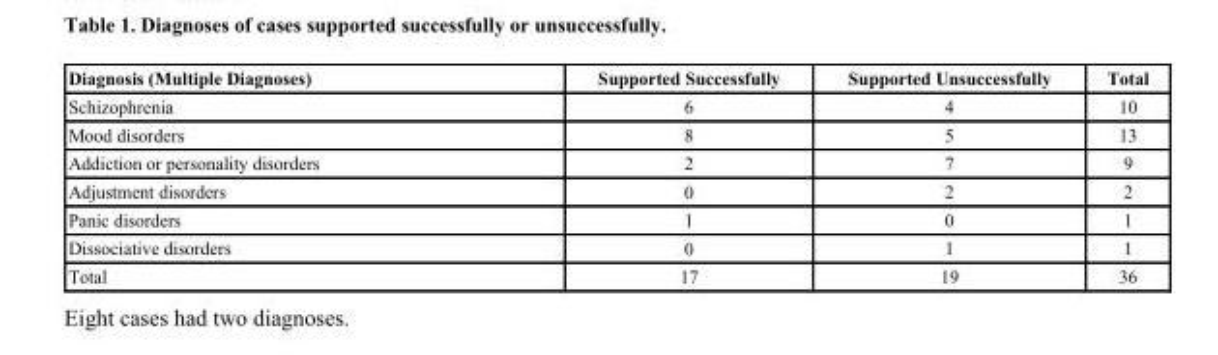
<table><thead><tr><td>Diagnosis (Multiple Diagnoses)</td><td>Supported Successfully</td><td>Supported Unsuccessfully</td><td>Total</td></tr></thead><tbody><tr><td>Schizophrenia</td><td>6</td><td>4</td><td>10</td></tr><tr><td>Mood disorders</td><td>8</td><td>5</td><td>13</td></tr><tr><td>Addiction or personality disorders</td><td>2</td><td>7</td><td>9</td></tr><tr><td>Adjustment disorders</td><td>0</td><td>2</td><td>2</td></tr><tr><td>Panic disorders</td><td>1</td><td>0</td><td>1</td></tr><tr><td>Dissociative disorders</td><td>0</td><td>1</td><td>1</td></tr><tr><td>Total</td><td>17</td><td>19</td><td>36</td></tr></tbody></table>